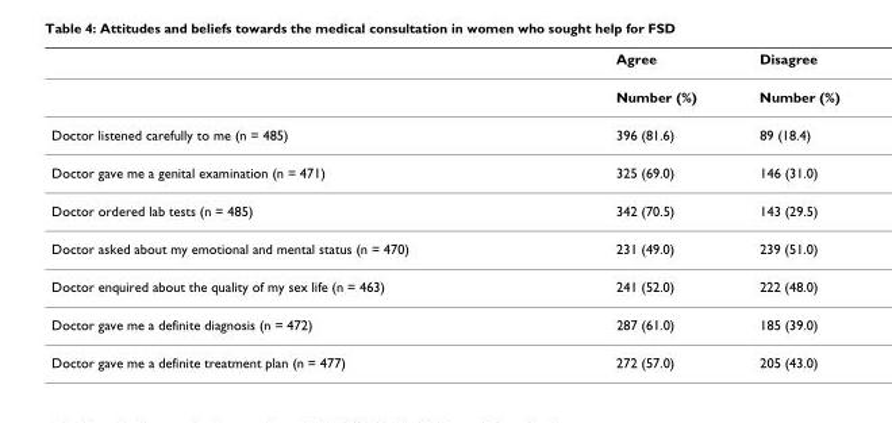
<table><thead><tr><td></td><td>Agree</td><td>Disagree</td></tr></thead><tbody><tr><td></td><td>Number (%)</td><td>Number (%)</td></tr><tr><td>Doctor listened carefully to me (n = 485)</td><td>396 (81.6)</td><td>89 (18.4)</td></tr><tr><td>Doctor gave me a genital examination (n = 471)</td><td>325 (69.0)</td><td>146 (31.0)</td></tr><tr><td>Doctor ordered lab tests (n = 485)</td><td>342 (70.5)</td><td>143 (29.5)</td></tr><tr><td>Doctor asked about my emotional and mental status (n = 470)</td><td>231 (49.0)</td><td>239 (51.0)</td></tr><tr><td>Doctor enquired about the quality of my sex life (n = 463)</td><td>241 (52.0)</td><td>222 (48.0)</td></tr><tr><td>Doctor gave me a definite diagnosis (n = 472)</td><td>287 (61.0)</td><td>185 (39.0)</td></tr><tr><td>Doctor gave me a definite treatment plan (n = 477)</td><td>272 (57.0)</td><td>205 (43.0)</td></tr></tbody></table>